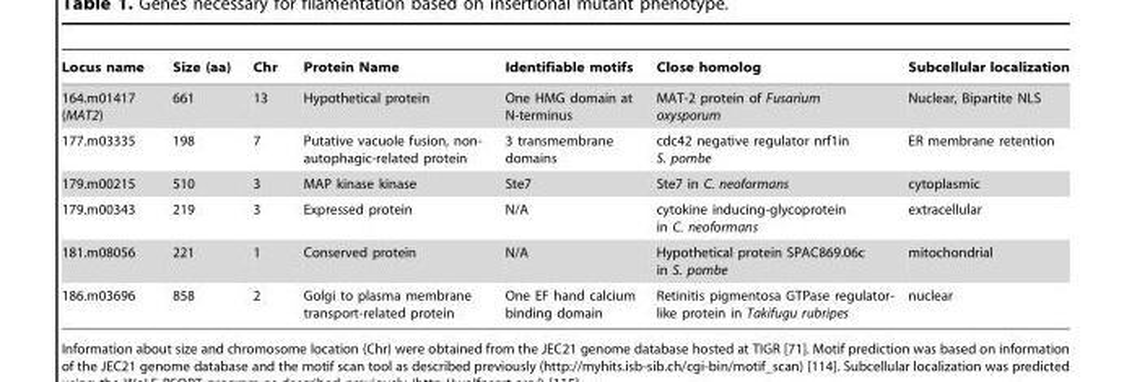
<table><thead><tr><td>Locus name</td><td>Size (aa)</td><td>Chr</td><td>Protein Name</td><td>Identifiable motifs</td><td>Close homolog</td><td>Subcellular localization</td></tr></thead><tbody><tr><td>164.m01417 (MAT2)</td><td>661</td><td>13</td><td>Hypothetical protein</td><td>One HMG domain at N-terminus</td><td>MAT-2 protein of Fusarium oxysporum</td><td>Nuclear, Bipartite NLS</td></tr><tr><td>177.m03335</td><td>198</td><td>7</td><td>Putative vacuole fusion, non- autophagic-related protein</td><td>3 transmembrane domains</td><td>cdc42 negative regulator nrf1in S. pombe</td><td>ER membrane retention</td></tr><tr><td>179.m00215</td><td>510</td><td>3</td><td>MAP kinase kinase</td><td>Ste7</td><td>Ste7 in C. neoformans</td><td>cytoplasmic</td></tr><tr><td>179.m00343</td><td>219</td><td>3</td><td>Expressed protein</td><td>N/A</td><td>cytokine inducing-glycoprotein in C. neoformans</td><td>extracellular</td></tr><tr><td>181.m08056</td><td>221</td><td>1</td><td>Conserved protein</td><td>N/A</td><td>Hypothetical protein SPAC869.06c in S. pombe</td><td>mitochondrial</td></tr><tr><td>186.m03696</td><td>858</td><td>2</td><td>Golgi to plasma membrane transport-related protein</td><td>One EF hand calcium binding domain</td><td>Retinitis pigmentosa GTPase regulator- like protein in Takifugu rubripes</td><td>nuclear</td></tr></tbody></table>